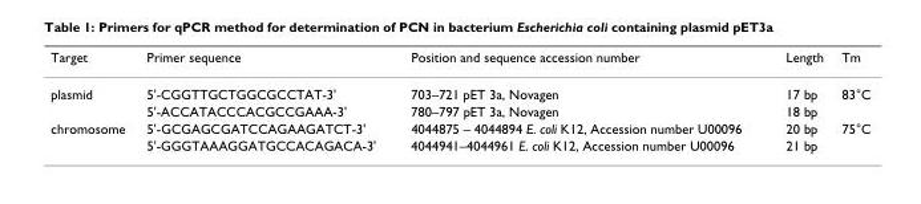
<table><thead><tr><td>Target</td><td>Primer sequence</td><td>Position and sequence accession number</td><td>Length</td><td>Tm</td></tr></thead><tbody><tr><td rowspan="2">plasmid</td><td>5&#x27;-CGGTTGCTGGCGCCTAT-3&#x27;</td><td>703–721 pET 3a, Novagen</td><td>17 bp</td><td>83°C</td></tr><tr><td>5&#x27;-ACCATACCCACGCCGAAA-3&#x27;</td><td>780–797 pET 3a, Novagen</td><td>18 bp</td><td></td></tr><tr><td rowspan="2">chromosome</td><td>5&#x27;-GCGAGCGATCCAGAAGATCT-3&#x27;</td><td>4044875 – 4044894 E. coli K12, Accession number U00096</td><td>20 bp</td><td>75°C</td></tr><tr><td>5&#x27;-GGGTAAAGGATGCCACAGACA-3&#x27;</td><td>4044941–4044961 E. coli K12, Accession number U00096</td><td>21 bp</td><td></td></tr></tbody></table>